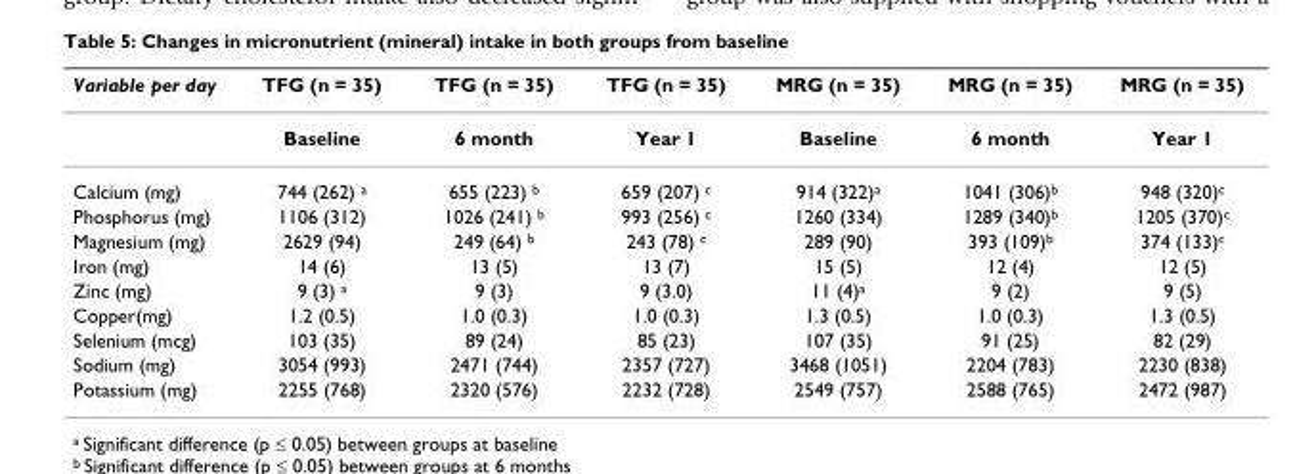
<table><thead><tr><td>Variable per day</td><td>TFG (n = 35)</td><td>TFG (n = 35)</td><td>TFG (n = 35)</td><td>MRG (n = 35)</td><td>MRG (n = 35)</td><td>MRG (n = 35)</td></tr></thead><tbody><tr><td></td><td>Baseline</td><td>6 month</td><td>Year 1</td><td>Baseline</td><td>6 month</td><td>Year 1</td></tr><tr><td>Calcium (mg)</td><td>744 (262) <sup>a</sup></td><td>655 (223) <sup>b</sup></td><td>659 (207) <sup>c</sup></td><td>914 (322)<sup>a</sup></td><td>1041 (306)<sup>b</sup></td><td>948 (320)<sup>c</sup></td></tr><tr><td>Phosphorus (mg)</td><td>1106 (312)</td><td>1026 (241) <sup>b</sup></td><td>993 (256) <sup>c</sup></td><td>1260 (334)</td><td>1289 (340)<sup>b</sup></td><td>1205 (370)<sup>c</sup></td></tr><tr><td>Magnesium (mg)</td><td>2629 (94)</td><td>249 (64) <sup>b</sup></td><td>243 (78) <sup>c</sup></td><td>289 (90)</td><td>393 (109)<sup>b</sup></td><td>374 (133)<sup>c</sup></td></tr><tr><td>Iron (mg)</td><td>14 (6)</td><td>13 (5)</td><td>13 (7)</td><td>15 (5)</td><td>12 (4)</td><td>12 (5)</td></tr><tr><td>Zinc (mg)</td><td>9 (3) <sup>a</sup></td><td>9 (3)</td><td>9 (3.0)</td><td>11 (4)<sup>a</sup></td><td>9 (2)</td><td>9 (5)</td></tr><tr><td>Copper(mg)</td><td>1.2 (0.5)</td><td>1.0 (0.3)</td><td>1.0 (0.3)</td><td>1.3 (0.5)</td><td>1.0 (0.3)</td><td>1.3 (0.5)</td></tr><tr><td>Selenium (mcg)</td><td>103 (35)</td><td>89 (24)</td><td>85 (23)</td><td>107 (35)</td><td>91 (25)</td><td>82 (29)</td></tr><tr><td>Sodium (mg)</td><td>3054 (993)</td><td>2471 (744)</td><td>2357 (727)</td><td>3468 (1051)</td><td>2204 (783)</td><td>2230 (838)</td></tr><tr><td>Potassium (mg)</td><td>2255 (768)</td><td>2320 (576)</td><td>2232 (728)</td><td>2549 (757)</td><td>2588 (765)</td><td>2472 (987)</td></tr></tbody></table>